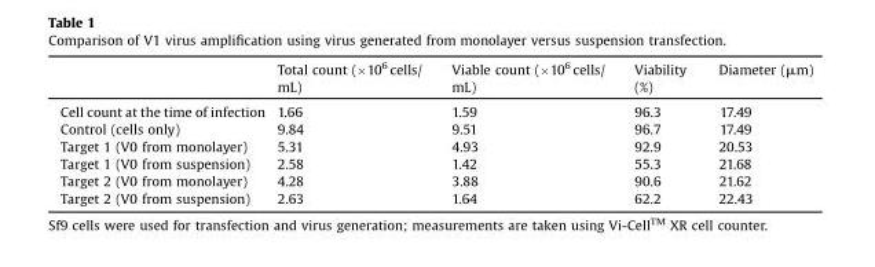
<table><thead><tr><td></td><td>Total count (×10<sup>6</sup> cells/ mL)</td><td>Viable count (×10<sup>6</sup> cells/ mL)</td><td>Viability (%)</td><td>Diameter (μm)</td></tr></thead><tbody><tr><td>Cell count at the time of infection</td><td>1.66</td><td>1.59</td><td>96.3</td><td>17.49</td></tr><tr><td>Control (cells only)</td><td>9.84</td><td>9.51</td><td>96.7</td><td>17.49</td></tr><tr><td>Target 1 (V0 from monolayer)</td><td>5.31</td><td>4.93</td><td>92.9</td><td>20.53</td></tr><tr><td>Target 1 (V0 from suspension)</td><td>2.58</td><td>1.42</td><td>55.3</td><td>21.68</td></tr><tr><td>Target 2 (V0 from monolayer)</td><td>4.28</td><td>3.88</td><td>90.6</td><td>21.62</td></tr><tr><td>Target 2 (V0 from suspension)</td><td>2.63</td><td>1.64</td><td>62.2</td><td>22.43</td></tr></tbody></table>